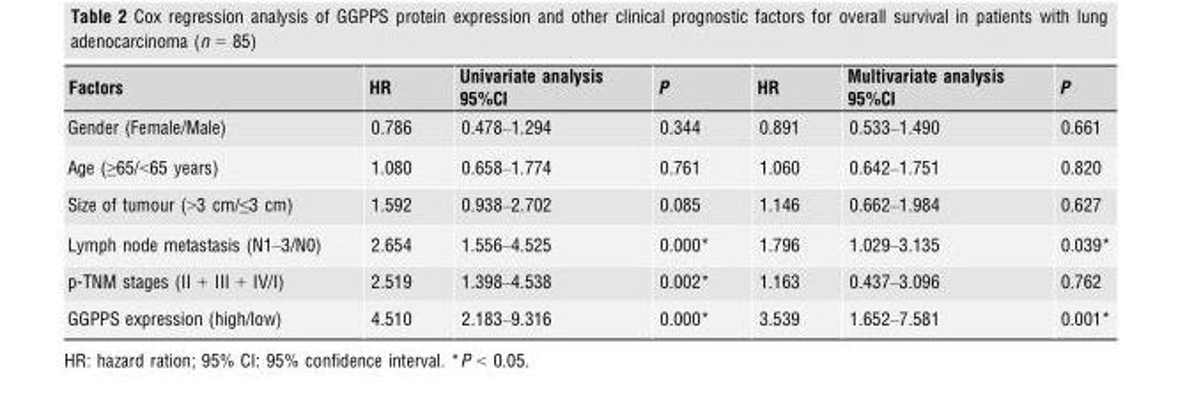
<table><thead><tr><td>Factors</td><td>HR</td><td>Univariate analysis 95%CI</td><td>P</td><td>HR</td><td>Multivariate analysis 95%CI</td><td>P</td></tr></thead><tbody><tr><td>Gender (Female/Male)</td><td>0.786</td><td>0.478–1.294</td><td>0.344</td><td>0.891</td><td>0.533–1.490</td><td>0.661</td></tr><tr><td>Age (≥65/&lt;65 years)</td><td>1.080</td><td>0.658–1.774</td><td>0.761</td><td>1.060</td><td>0.642–1.751</td><td>0.820</td></tr><tr><td>Size of tumour (&gt;3 cm/≤3 cm)</td><td>1.592</td><td>0.938–2.702</td><td>0.085</td><td>1.146</td><td>0.662–1.984</td><td>0.627</td></tr><tr><td>Lymph node metastasis (N1–3/N0)</td><td>2.654</td><td>1.556–4.525</td><td>0.000*</td><td>1.796</td><td>1.029–3.135</td><td>0.039*</td></tr><tr><td>p-TNM stages (II + III + IV/I)</td><td>2.519</td><td>1.398–4.538</td><td>0.002*</td><td>1.163</td><td>0.437–3.096</td><td>0.762</td></tr><tr><td>GGPPS expression (high/low)</td><td>4.510</td><td>2.183–9.316</td><td>0.000*</td><td>3.539</td><td>1.652–7.581</td><td>0.001*</td></tr></tbody></table>